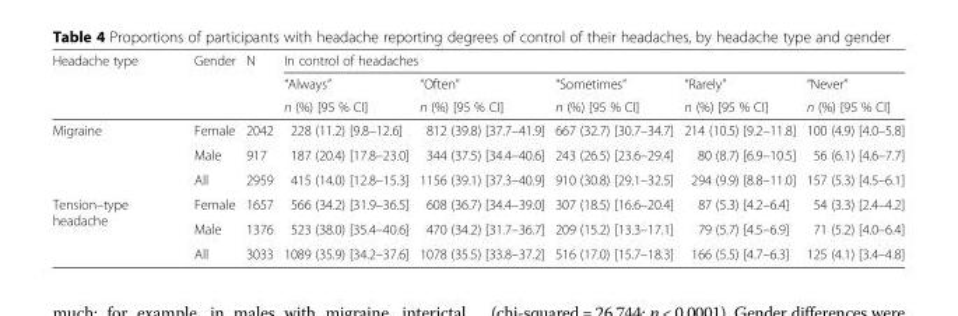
<table><thead><tr><td rowspan="3">Headache type</td><td rowspan="3">Gender</td><td rowspan="3">N</td><td colspan="5">In control of headaches</td></tr><tr><td rowspan="2">“Always” n (%) [95 % CI]</td><td rowspan="2">“Often” n (%) [95 % CI]</td><td rowspan="2">“Sometimes” n (%) [95 % CI]</td><td rowspan="2">“Rarely” n (%) [95 % CI]</td><td rowspan="2">“Never” n (%) [95 % CI]</td></tr><tr></tr></thead><tbody><tr><td rowspan="3">Migraine</td><td>Female</td><td>2042</td><td>228 (11.2) [9.8–12.6]</td><td>812 (39.8) [37.7–41.9]</td><td>667 (32.7) [30.7–34.7]</td><td>214 (10.5) [9.2–11.8]</td><td>100 (4.9) [4.0–5.8]</td></tr><tr><td>Male</td><td>917</td><td>187 (20.4) [17.8–23.0]</td><td>344 (37.5) [34.4–40.6]</td><td>243 (26.5) [23.6–29.4]</td><td>80 (8.7) [6.9–10.5]</td><td>56 (6.1) [4.6–7.7]</td></tr><tr><td>All</td><td>2959</td><td>415 (14.0) [12.8–15.3]</td><td>1156 (39.1) [37.3–40.9]</td><td>910 (30.8) [29.1–32.5]</td><td>294 (9.9) [8.8–11.0]</td><td>157 (5.3) [4.5–6.1]</td></tr><tr><td rowspan="3">Tension–type headache</td><td>Female</td><td>1657</td><td>566 (34.2) [31.9–36.5]</td><td>608 (36.7) [34.4–39.0]</td><td>307 (18.5) [16.6–20.4]</td><td>87 (5.3) [4.2–6.4]</td><td>54 (3.3) [2.4–4.2]</td></tr><tr><td>Male</td><td>1376</td><td>523 (38.0) [35.4–40.6]</td><td>470 (34.2) [31.7–36.7]</td><td>209 (15.2) [13.3–17.1]</td><td>79 (5.7) [4.5–6.9]</td><td>71 (5.2) [4.0–6.4]</td></tr><tr><td>All</td><td>3033</td><td>1089 (35.9) [34.2–37.6]</td><td>1078 (35.5) [33.8–37.2]</td><td>516 (17.0) [15.7–18.3]</td><td>166 (5.5) [4.7–6.3]</td><td>125 (4.1) [3.4–4.8]</td></tr></tbody></table>